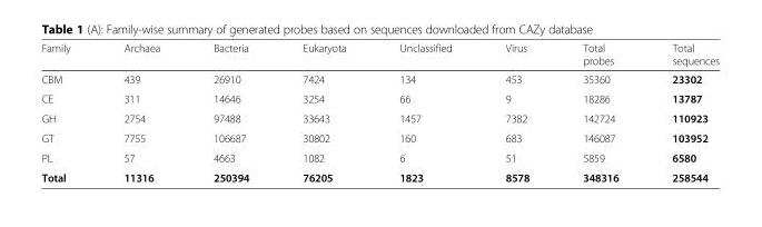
<table><thead><tr><td>Family</td><td>Archaea</td><td>Bacteria</td><td>Eukaryota</td><td>Unclassified</td><td>Virus</td><td>Total probes</td><td>Total sequences</td></tr></thead><tbody><tr><td>CBM</td><td>439</td><td>26910</td><td>7424</td><td>134</td><td>453</td><td>35360</td><td>23302</td></tr><tr><td>CE</td><td>311</td><td>14646</td><td>3254</td><td>66</td><td>9</td><td>18286</td><td>13787</td></tr><tr><td>GH</td><td>2754</td><td>97488</td><td>33643</td><td>1457</td><td>7382</td><td>142724</td><td>110923</td></tr><tr><td>GT</td><td>7755</td><td>106687</td><td>30802</td><td>160</td><td>683</td><td>146087</td><td>103952</td></tr><tr><td>PL</td><td>57</td><td>4663</td><td>1082</td><td>6</td><td>51</td><td>5859</td><td>6580</td></tr><tr><td>Total</td><td>11316</td><td>250394</td><td>76205</td><td>1823</td><td>8578</td><td>348316</td><td>258544</td></tr></tbody></table>